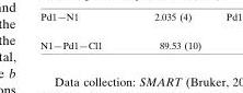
<table><tbody><tr><td>N1—Pd1—Cl1</td><td>89.53 (10)</td></tr></tbody></table>